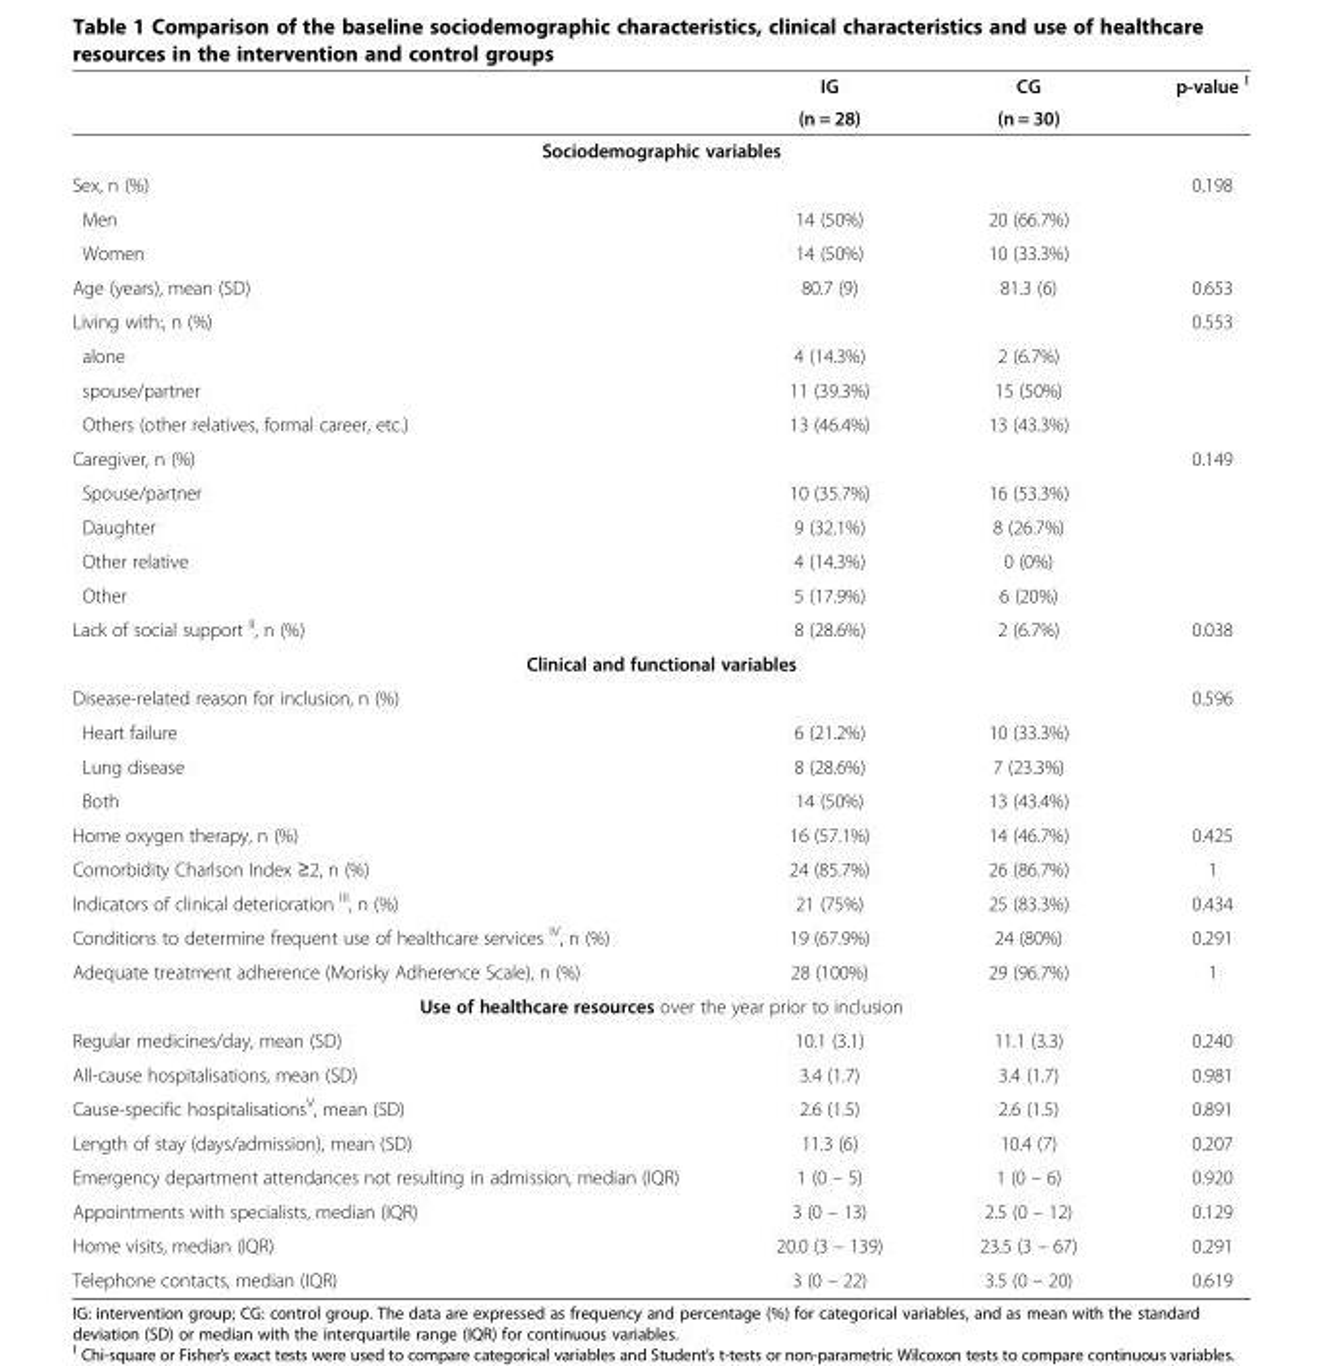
<table><thead><tr><td rowspan="2"></td><td rowspan="2">IG (n = 28)</td><td rowspan="2">CG (n = 30)</td><td rowspan="2">p-value <sup>I</sup></td></tr><tr></tr></thead><tbody><tr><td colspan="4">Sociodemographic variables</td></tr><tr><td>Sex, n (%)</td><td></td><td></td><td>0.198</td></tr><tr><td>Men</td><td>14 (50%)</td><td>20 (66.7%)</td><td></td></tr><tr><td>Women</td><td>14 (50%)</td><td>10 (33.3%)</td><td></td></tr><tr><td>Age (years), mean (SD)</td><td>80.7 (9)</td><td>81.3 (6)</td><td>0.653</td></tr><tr><td>Living with:, n (%)</td><td></td><td></td><td>0.553</td></tr><tr><td>alone</td><td>4 (14.3%)</td><td>2 (6.7%)</td><td></td></tr><tr><td>spouse/partner</td><td>11 (39.3%)</td><td>15 (50%)</td><td></td></tr><tr><td>Others (other relatives, formal career, etc.)</td><td>13 (46.4%)</td><td>13 (43.3%)</td><td></td></tr><tr><td>Caregiver, n (%)</td><td></td><td></td><td>0.149</td></tr><tr><td>Spouse/partner</td><td>10 (35.7%)</td><td>16 (53.3%)</td><td></td></tr><tr><td>Daughter</td><td>9 (32.1%)</td><td>8 (26.7%)</td><td></td></tr><tr><td>Other relative</td><td>4 (14.3%)</td><td>0 (0%)</td><td></td></tr><tr><td>Other</td><td>5 (17.9%)</td><td>6 (20%)</td><td></td></tr><tr><td>Lack of social support <sup>II</sup>, n (%)</td><td>8 (28.6%)</td><td>2 (6.7%)</td><td>0.038</td></tr><tr><td colspan="4">Clinical and functional variables</td></tr><tr><td>Disease-related reason for inclusion, n (%)</td><td></td><td></td><td>0.596</td></tr><tr><td>Heart failure</td><td>6 (21.2%)</td><td>10 (33.3%)</td><td></td></tr><tr><td>Lung disease</td><td>8 (28.6%)</td><td>7 (23.3%)</td><td></td></tr><tr><td>Both</td><td>14 (50%)</td><td>13 (43.4%)</td><td></td></tr><tr><td>Home oxygen therapy, n (%)</td><td>16 (57.1%)</td><td>14 (46.7%)</td><td>0.425</td></tr><tr><td>Comorbidity Charlson Index ≥2, n (%)</td><td>24 (85.7%)</td><td>26 (86.7%)</td><td>1</td></tr><tr><td>Indicators of clinical deterioration <sup>III</sup>, n (%)</td><td>21 (75%)</td><td>25 (83.3%)</td><td>0.434</td></tr><tr><td>Conditions to determine frequent use of healthcare services <sup>IV</sup>, n (%)</td><td>19 (67.9%)</td><td>24 (80%)</td><td>0.291</td></tr><tr><td>Adequate treatment adherence (Morisky Adherence Scale), n (%)</td><td>28 (100%)</td><td>29 (96.7%)</td><td>1</td></tr><tr><td colspan="4">Use of healthcare resources over the year prior to inclusion</td></tr><tr><td>Regular medicines/day, mean (SD)</td><td>10.1 (3.1)</td><td>11.1 (3.3)</td><td>0.240</td></tr><tr><td>All-cause hospitalisations, mean (SD)</td><td>3.4 (1.7)</td><td>3.4 (1.7)</td><td>0.981</td></tr><tr><td>Cause-specific hospitalisations<sup>V</sup>, mean (SD)</td><td>2.6 (1.5)</td><td>2.6 (1.5)</td><td>0.891</td></tr><tr><td>Length of stay (days/admission), mean (SD)</td><td>11.3 (6)</td><td>10.4 (7)</td><td>0.207</td></tr><tr><td>Emergency department attendances not resulting in admission, median (IQR)</td><td>1 (0 – 5)</td><td>1 (0 – 6)</td><td>0.920</td></tr><tr><td>Appointments with specialists, median (IQR)</td><td>3 (0 – 13)</td><td>2.5 (0 – 12)</td><td>0.129</td></tr><tr><td>Home visits, median (IQR)</td><td>20.0 (3 – 139)</td><td>23.5 (3 – 67)</td><td>0.291</td></tr><tr><td>Telephone contacts, median (IQR)</td><td>3 (0 – 22)</td><td>3.5 (0 – 20)</td><td>0.619</td></tr></tbody></table>